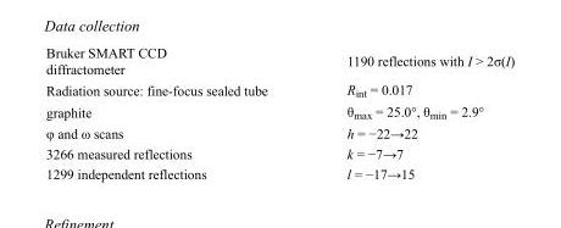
<table><tbody><tr><td>Bruker SMART CCD diffractometer</td><td>1190 reflections with I &gt; 2σ(I)</td></tr><tr><td>Radiation source: fine-focus sealed tube</td><td>R<sub>int</sub> = 0.017</td></tr><tr><td>graphite</td><td>θ<sub>max</sub> = 25.0°, θ<sub>min</sub> = 2.9°</td></tr><tr><td>φ and ω scans</td><td>h = −22→22</td></tr><tr><td>3266 measured reflections</td><td>k = −7→7</td></tr><tr><td>1299 independent reflections</td><td>l = −17→15</td></tr></tbody></table>